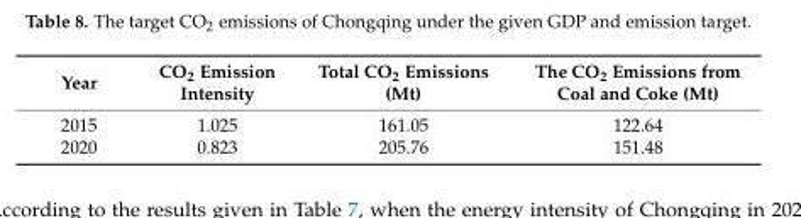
<table><thead><tr><td>Year</td><td>CO<sub>2</sub> Emission Intensity</td><td>Total CO<sub>2</sub> Emissions (Mt)</td><td>The CO<sub>2</sub> Emissions from Coal and Coke (Mt)</td></tr></thead><tbody><tr><td>2015</td><td>1.025</td><td>161.05</td><td>122.64</td></tr><tr><td>2020</td><td>0.823</td><td>205.76</td><td>151.48</td></tr></tbody></table>